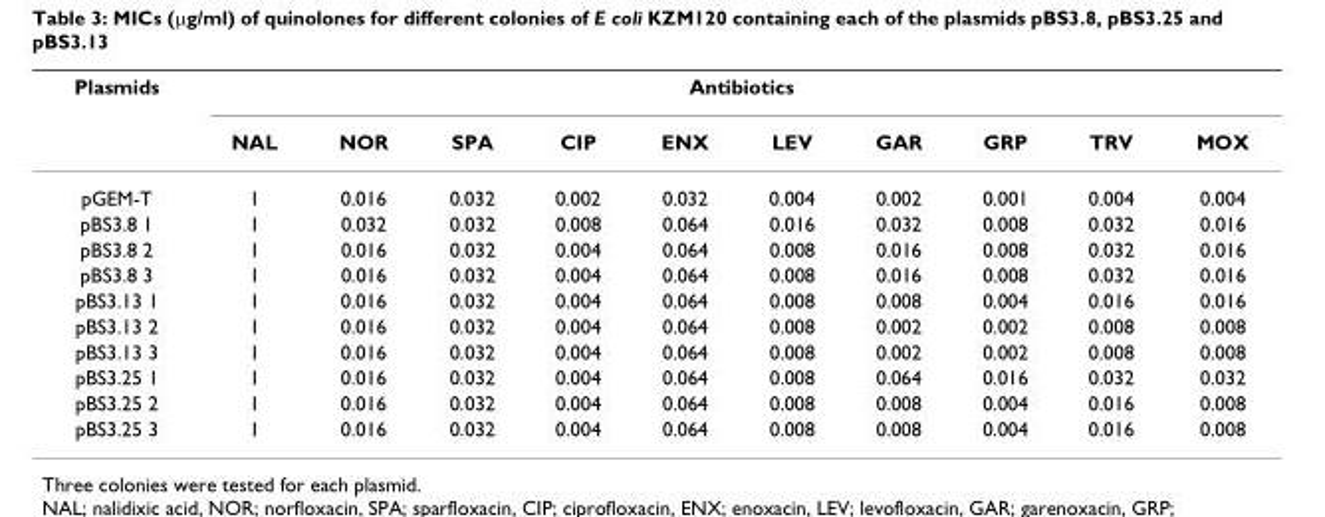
<table><thead><tr><td rowspan="2">Plasmids</td><td colspan="10">Antibiotics</td></tr><tr><td>NAL</td><td>NOR</td><td>SPA</td><td>CIP</td><td>ENX</td><td>LEV</td><td>GAR</td><td>GRP</td><td>TRV</td><td>MOX</td></tr></thead><tbody><tr><td>pGEM-T</td><td>1</td><td>0.016</td><td>0.032</td><td>0.002</td><td>0.032</td><td>0.004</td><td>0.002</td><td>0.001</td><td>0.004</td><td>0.004</td></tr><tr><td>pBS3.8 1</td><td>1</td><td>0.032</td><td>0.032</td><td>0.008</td><td>0.064</td><td>0.016</td><td>0.032</td><td>0.008</td><td>0.032</td><td>0.016</td></tr><tr><td>pBS3.8 2</td><td>1</td><td>0.016</td><td>0.032</td><td>0.004</td><td>0.064</td><td>0.008</td><td>0.016</td><td>0.008</td><td>0.032</td><td>0.016</td></tr><tr><td>pBS3.8 3</td><td>1</td><td>0.016</td><td>0.032</td><td>0.004</td><td>0.064</td><td>0.008</td><td>0.016</td><td>0.008</td><td>0.032</td><td>0.016</td></tr><tr><td>pBS3.13 1</td><td>1</td><td>0.016</td><td>0.032</td><td>0.004</td><td>0.064</td><td>0.008</td><td>0.008</td><td>0.004</td><td>0.016</td><td>0.016</td></tr><tr><td>pBS3.13 2</td><td>1</td><td>0.016</td><td>0.032</td><td>0.004</td><td>0.064</td><td>0.008</td><td>0.002</td><td>0.002</td><td>0.008</td><td>0.008</td></tr><tr><td>pBS3.13 3</td><td>1</td><td>0.016</td><td>0.032</td><td>0.004</td><td>0.064</td><td>0.008</td><td>0.002</td><td>0.002</td><td>0.008</td><td>0.008</td></tr><tr><td>pBS3.25 1</td><td>1</td><td>0.016</td><td>0.032</td><td>0.004</td><td>0.064</td><td>0.008</td><td>0.064</td><td>0.016</td><td>0.032</td><td>0.032</td></tr><tr><td>pBS3.25 2</td><td>1</td><td>0.016</td><td>0.032</td><td>0.004</td><td>0.064</td><td>0.008</td><td>0.008</td><td>0.004</td><td>0.016</td><td>0.008</td></tr><tr><td>pBS3.25 3</td><td>1</td><td>0.016</td><td>0.032</td><td>0.004</td><td>0.064</td><td>0.008</td><td>0.008</td><td>0.004</td><td>0.016</td><td>0.008</td></tr></tbody></table>